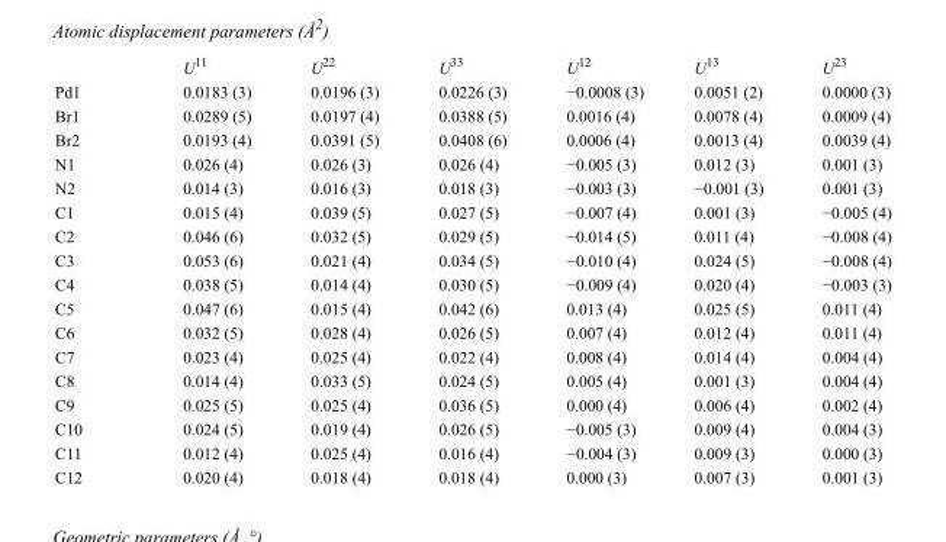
<table><thead><tr><td></td><td>U<sup>11</sup></td><td>U<sup>22</sup></td><td>U<sup>33</sup></td><td>U<sup>12</sup></td><td>U<sup>13</sup></td><td>U<sup>23</sup></td></tr></thead><tbody><tr><td>Pd1</td><td>0.0183 (3)</td><td>0.0196 (3)</td><td>0.0226 (3)</td><td>−0.0008 (3)</td><td>0.0051 (2)</td><td>0.0000 (3)</td></tr><tr><td>Br1</td><td>0.0289 (5)</td><td>0.0197 (4)</td><td>0.0388 (5)</td><td>0.0016 (4)</td><td>0.0078 (4)</td><td>0.0009 (4)</td></tr><tr><td>Br2</td><td>0.0193 (4)</td><td>0.0391 (5)</td><td>0.0408 (6)</td><td>0.0006 (4)</td><td>0.0013 (4)</td><td>0.0039 (4)</td></tr><tr><td>N1</td><td>0.026 (4)</td><td>0.026 (3)</td><td>0.026 (4)</td><td>−0.005 (3)</td><td>0.012 (3)</td><td>0.001 (3)</td></tr><tr><td>N2</td><td>0.014 (3)</td><td>0.016 (3)</td><td>0.018 (3)</td><td>−0.003 (3)</td><td>−0.001 (3)</td><td>0.001 (3)</td></tr><tr><td>C1</td><td>0.015 (4)</td><td>0.039 (5)</td><td>0.027 (5)</td><td>−0.007 (4)</td><td>0.001 (3)</td><td>−0.005 (4)</td></tr><tr><td>C2</td><td>0.046 (6)</td><td>0.032 (5)</td><td>0.029 (5)</td><td>−0.014 (5)</td><td>0.011 (4)</td><td>−0.008 (4)</td></tr><tr><td>C3</td><td>0.053 (6)</td><td>0.021 (4)</td><td>0.034 (5)</td><td>−0.010 (4)</td><td>0.024 (5)</td><td>−0.008 (4)</td></tr><tr><td>C4</td><td>0.038 (5)</td><td>0.014 (4)</td><td>0.030 (5)</td><td>−0.009 (4)</td><td>0.020 (4)</td><td>−0.003 (3)</td></tr><tr><td>C5</td><td>0.047 (6)</td><td>0.015 (4)</td><td>0.042 (6)</td><td>0.013 (4)</td><td>0.025 (5)</td><td>0.011 (4)</td></tr><tr><td>C6</td><td>0.032 (5)</td><td>0.028 (4)</td><td>0.026 (5)</td><td>0.007 (4)</td><td>0.012 (4)</td><td>0.011 (4)</td></tr><tr><td>C7</td><td>0.023 (4)</td><td>0.025 (4)</td><td>0.022 (4)</td><td>0.008 (4)</td><td>0.014 (4)</td><td>0.004 (4)</td></tr><tr><td>C8</td><td>0.014 (4)</td><td>0.033 (5)</td><td>0.024 (5)</td><td>0.005 (4)</td><td>0.001 (3)</td><td>0.004 (4)</td></tr><tr><td>C9</td><td>0.025 (5)</td><td>0.025 (4)</td><td>0.036 (5)</td><td>0.000 (4)</td><td>0.006 (4)</td><td>0.002 (4)</td></tr><tr><td>C10</td><td>0.024 (5)</td><td>0.019 (4)</td><td>0.026 (5)</td><td>−0.005 (3)</td><td>0.009 (4)</td><td>0.004 (3)</td></tr><tr><td>C11</td><td>0.012 (4)</td><td>0.025 (4)</td><td>0.016 (4)</td><td>−0.004 (3)</td><td>0.009 (3)</td><td>0.000 (3)</td></tr><tr><td>C12</td><td>0.020 (4)</td><td>0.018 (4)</td><td>0.018 (4)</td><td>0.000 (3)</td><td>0.007 (3)</td><td>0.001 (3)</td></tr></tbody></table>